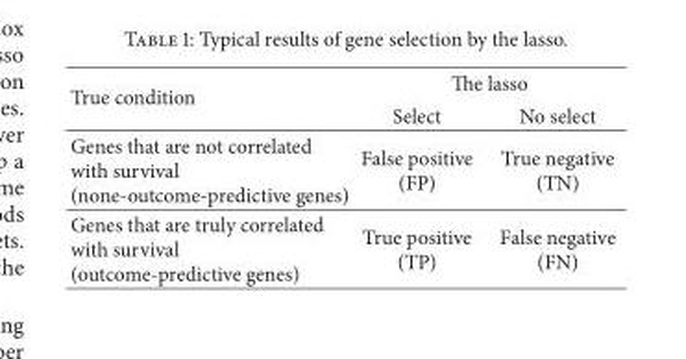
<table><thead><tr><td rowspan="2">True condition</td><td colspan="2">The lasso</td></tr><tr><td>Select</td><td>No select</td></tr></thead><tbody><tr><td>Genes that are not correlated with survival (none-outcome-predictive genes)</td><td>False positive (FP)</td><td>True negative (TN)</td></tr><tr><td>Genes that are truly correlated with survival (outcome-predictive genes)</td><td>True positive (TP)</td><td>False negative (FN)</td></tr></tbody></table>